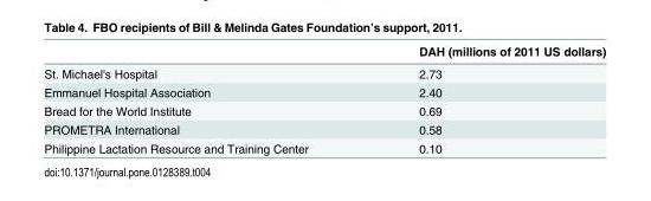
<table><thead><tr><td></td><td>DAH (millions of 2011 US dollars)</td></tr></thead><tbody><tr><td>St. Michael&#x27;s Hospital</td><td>2.73</td></tr><tr><td>Emmanuel Hospital Association</td><td>2.40</td></tr><tr><td>Bread for the World Institute</td><td>0.69</td></tr><tr><td>PROMETRA International</td><td>0.58</td></tr><tr><td>Philippine Lactation Resource and Training Center</td><td>0.10</td></tr></tbody></table>